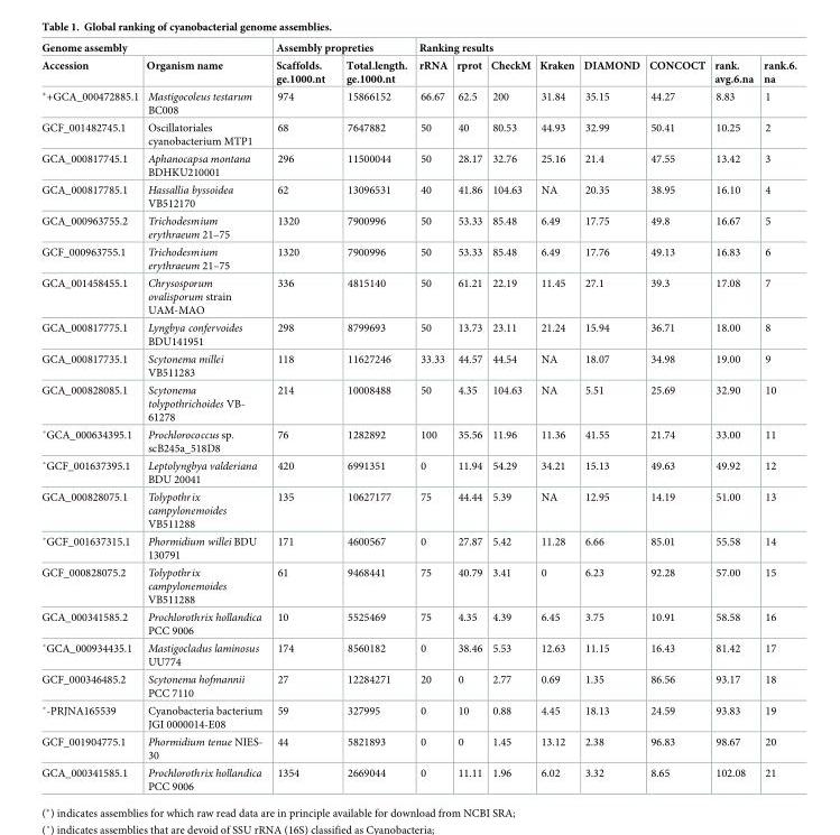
<table><thead><tr><td colspan="2">Genome assembly</td><td colspan="2">Assembly propreties</td><td colspan="8">Ranking results</td></tr><tr><td>Accession</td><td>Organism name</td><td>Scaffolds. ge.1000.nt</td><td>Total.length. ge.1000.nt</td><td>rRNA</td><td>rprot</td><td>CheckM</td><td>Kraken</td><td>DIAMOND</td><td>CONCOCT</td><td>rank. avg.6.na</td><td>rank.6. na</td></tr></thead><tbody><tr><td>*+GCA_000472885.1</td><td>Mastigocoleus testarum BC008</td><td>974</td><td>15866152</td><td>66.67</td><td>62.5</td><td>200</td><td>31.84</td><td>35.15</td><td>44.27</td><td>8.83</td><td>1</td></tr><tr><td>GCF_001482745.1</td><td>Oscillatoriales cyanobacterium MTP1</td><td>68</td><td>7647882</td><td>50</td><td>40</td><td>80.53</td><td>44.93</td><td>32.99</td><td>50.41</td><td>10.25</td><td>2</td></tr><tr><td>GCA_000817745.1</td><td>Aphanocapsa montana BDHKU210001</td><td>296</td><td>11500044</td><td>50</td><td>28.17</td><td>32.76</td><td>25.16</td><td>21.4</td><td>47.55</td><td>13.42</td><td>3</td></tr><tr><td>GCA_000817785.1</td><td>Hassallia byssoidea VB512170</td><td>62</td><td>13096531</td><td>40</td><td>41.86</td><td>104.63</td><td>NA</td><td>20.35</td><td>38.95</td><td>16.10</td><td>4</td></tr><tr><td>GCA_000963755.2</td><td>Trichodesmium erythraeum 21–75</td><td>1320</td><td>7900996</td><td>50</td><td>53.33</td><td>85.48</td><td>6.49</td><td>17.75</td><td>49.8</td><td>16.67</td><td>5</td></tr><tr><td>GCF_000963755.1</td><td>Trichodesmium erythraeum 21–75</td><td>1320</td><td>7900996</td><td>50</td><td>53.33</td><td>85.48</td><td>6.49</td><td>17.76</td><td>49.13</td><td>16.83</td><td>6</td></tr><tr><td>GCA_001458455.1</td><td>Chrysosporum ovalisporum strain UAM-MAO</td><td>336</td><td>4815140</td><td>50</td><td>61.21</td><td>22.19</td><td>11.45</td><td>27.1</td><td>39.3</td><td>17.08</td><td>7</td></tr><tr><td>GCA_000817775.1</td><td>Lyngbya confervoides BDU141951</td><td>298</td><td>8799693</td><td>50</td><td>13.73</td><td>23.11</td><td>21.24</td><td>15.94</td><td>36.71</td><td>18.00</td><td>8</td></tr><tr><td>GCA_000817735.1</td><td>Scytonema millei VB511283</td><td>118</td><td>11627246</td><td>33.33</td><td>44.57</td><td>44.54</td><td>NA</td><td>18.07</td><td>34.98</td><td>19.00</td><td>9</td></tr><tr><td>GCA_000828085.1</td><td>Scytonema tolypothrichoides VB- 61278</td><td>214</td><td>10008488</td><td>50</td><td>4.35</td><td>104.63</td><td>NA</td><td>5.51</td><td>25.69</td><td>32.90</td><td>10</td></tr><tr><td>˚GCA_000634395.1</td><td>Prochlorococcus sp. scB245a_518D8</td><td>76</td><td>1282892</td><td>100</td><td>35.56</td><td>11.96</td><td>11.36</td><td>41.55</td><td>21.74</td><td>33.00</td><td>11</td></tr><tr><td>˚GCF_001637395.1</td><td>Leptolyngbya valderiana BDU 20041</td><td>420</td><td>6991351</td><td>0</td><td>11.94</td><td>54.29</td><td>34.21</td><td>15.13</td><td>49.63</td><td>49.92</td><td>12</td></tr><tr><td>GCA_000828075.1</td><td>Tolypothrix campylonemoides VB511288</td><td>135</td><td>10627177</td><td>75</td><td>44.44</td><td>5.39</td><td>NA</td><td>12.95</td><td>14.19</td><td>51.00</td><td>13</td></tr><tr><td>˚GCF_001637315.1</td><td>Phormidium willei BDU 130791</td><td>171</td><td>4600567</td><td>0</td><td>27.87</td><td>5.42</td><td>11.28</td><td>6.66</td><td>85.01</td><td>55.58</td><td>14</td></tr><tr><td>GCF_000828075.2</td><td>Tolypothrix campylonemoides VB511288</td><td>61</td><td>9468441</td><td>75</td><td>40.79</td><td>3.41</td><td>0</td><td>6.23</td><td>92.28</td><td>57.00</td><td>15</td></tr><tr><td>GCA_000341585.2</td><td>Prochlorothrix hollandica PCC 9006</td><td>10</td><td>5525469</td><td>75</td><td>4.35</td><td>4.39</td><td>6.45</td><td>3.75</td><td>10.91</td><td>58.58</td><td>16</td></tr><tr><td>˚GCA_000934435.1</td><td>Mastigocladus laminosus UU774</td><td>174</td><td>8560182</td><td>0</td><td>38.46</td><td>5.53</td><td>12.63</td><td>11.15</td><td>16.43</td><td>81.42</td><td>17</td></tr><tr><td>GCF_000346485.2</td><td>Scytonema hofmannii PCC 7110</td><td>27</td><td>12284271</td><td>20</td><td>0</td><td>2.77</td><td>0.69</td><td>1.35</td><td>86.56</td><td>93.17</td><td>18</td></tr><tr><td>˚-PRJNA165539</td><td>Cyanobacteria bacterium JGI 0000014-E08</td><td>59</td><td>327995</td><td>0</td><td>10</td><td>0.88</td><td>4.45</td><td>18.13</td><td>24.59</td><td>93.83</td><td>19</td></tr><tr><td>GCF_001904775.1</td><td>Phormidium tenue NIES- 30</td><td>44</td><td>5821893</td><td>0</td><td>0</td><td>1.45</td><td>13.12</td><td>2.38</td><td>96.83</td><td>98.67</td><td>20</td></tr><tr><td>GCA_000341585.1</td><td>Prochlorothrix hollandica PCC 9006</td><td>1354</td><td>2669044</td><td>0</td><td>11.11</td><td>1.96</td><td>6.02</td><td>3.32</td><td>8.65</td><td>102.08</td><td>21</td></tr></tbody></table>